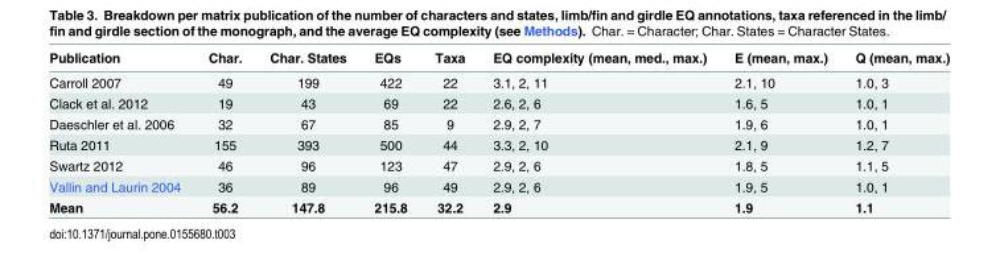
<table><thead><tr><td>Publication</td><td>Char.</td><td>Char. States</td><td>EQs</td><td>Taxa</td><td>EQ complexity (mean, med., max.)</td><td>E (mean, max.)</td><td>Q (mean, max.)</td></tr></thead><tbody><tr><td>Carroll 2007</td><td>49</td><td>199</td><td>422</td><td>22</td><td>3.1, 2, 11</td><td>2.1, 10</td><td>1.0, 3</td></tr><tr><td>Clack et al. 2012</td><td>19</td><td>43</td><td>69</td><td>22</td><td>2.6, 2, 6</td><td>1.6, 5</td><td>1.0, 1</td></tr><tr><td>Daeschler et al. 2006</td><td>32</td><td>67</td><td>85</td><td>9</td><td>2.9, 2, 7</td><td>1.9, 6</td><td>1.0, 1</td></tr><tr><td>Ruta 2011</td><td>155</td><td>393</td><td>500</td><td>44</td><td>3.3, 2, 10</td><td>2.1, 9</td><td>1.2, 7</td></tr><tr><td>Swartz 2012</td><td>46</td><td>96</td><td>123</td><td>47</td><td>2.9, 2, 6</td><td>1.8, 5</td><td>1.1, 5</td></tr><tr><td>Vallin and Laurin 2004</td><td>36</td><td>89</td><td>96</td><td>49</td><td>2.9, 2, 6</td><td>1.9, 5</td><td>1.0, 1</td></tr><tr><td>Mean</td><td>56.2</td><td>147.8</td><td>215.8</td><td>32.2</td><td>2.9</td><td>1.9</td><td>1.1</td></tr></tbody></table>